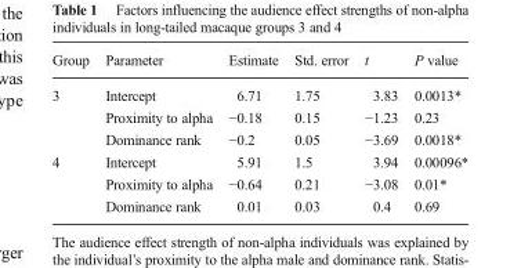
<table><thead><tr><td>Group</td><td>Parameter</td><td>Estimate</td><td>Std. error</td><td>t</td><td>P value</td></tr></thead><tbody><tr><td rowspan="3">3</td><td>Intercept</td><td>6.71</td><td>1.75</td><td>3.83</td><td>0.0013*</td></tr><tr><td>Proximity to alpha</td><td>−0.18</td><td>0.15</td><td>−1.23</td><td>0.23</td></tr><tr><td>Dominance rank</td><td>−0.2</td><td>0.05</td><td>−3.69</td><td>0.0018*</td></tr><tr><td rowspan="3">4</td><td>Intercept</td><td>5.91</td><td>1.5</td><td>3.94</td><td>0.00096*</td></tr><tr><td>Proximity to alpha</td><td>−0.64</td><td>0.21</td><td>−3.08</td><td>0.01*</td></tr><tr><td>Dominance rank</td><td>0.01</td><td>0.03</td><td>0.4</td><td>0.69</td></tr></tbody></table>